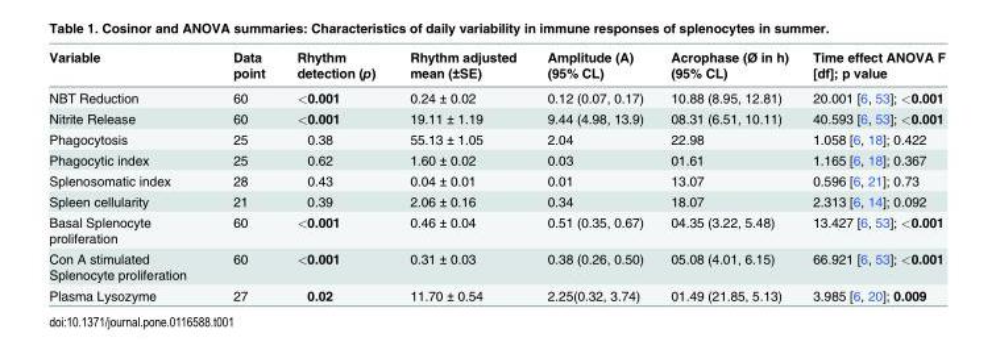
<table><thead><tr><td>Variable</td><td>Data point</td><td>Rhythm detection (p)</td><td>Rhythm adjusted mean (±SE)</td><td>Amplitude (A) (95% CL)</td><td>Acrophase (Ø in h) (95% CL)</td><td>Time effect ANOVA F [df]; p value</td></tr></thead><tbody><tr><td>NBT Reduction</td><td>60</td><td>&lt;0.001</td><td>0.24 ± 0.02</td><td>0.12 (0.07, 0.17)</td><td>10.88 (8.95, 12.81)</td><td>20.001 [6, 53]; &lt;0.001</td></tr><tr><td>Nitrite Release</td><td>60</td><td>&lt;0.001</td><td>19.11 ± 1.19</td><td>9.44 (4.98, 13.9)</td><td>08.31 (6.51, 10.11)</td><td>40.593 [6, 53]; &lt;0.001</td></tr><tr><td>Phagocytosis</td><td>25</td><td>0.38</td><td>55.13 ± 1.05</td><td>2.04</td><td>22.98</td><td>1.058 [6, 18]; 0.422</td></tr><tr><td>Phagocytic index</td><td>25</td><td>0.62</td><td>1.60 ± 0.02</td><td>0.03</td><td>01.61</td><td>1.165 [6, 18]; 0.367</td></tr><tr><td>Splenosomatic index</td><td>28</td><td>0.43</td><td>0.04 ± 0.01</td><td>0.01</td><td>13.07</td><td>0.596 [6, 21]; 0.73</td></tr><tr><td>Spleen cellularity</td><td>21</td><td>0.39</td><td>2.06 ± 0.16</td><td>0.34</td><td>18.07</td><td>2.313 [6, 14]; 0.092</td></tr><tr><td>Basal Splenocyte proliferation</td><td>60</td><td>&lt;0.001</td><td>0.46 ± 0.04</td><td>0.51 (0.35, 0.67)</td><td>04.35 (3.22, 5.48)</td><td>13.427 [6, 53]; &lt;0.001</td></tr><tr><td>Con A stimulated Splenocyte proliferation</td><td>60</td><td>&lt;0.001</td><td>0.31 ± 0.03</td><td>0.38 (0.26, 0.50)</td><td>05.08 (4.01, 6.15)</td><td>66.921 [6, 53]; &lt;0.001</td></tr><tr><td>Plasma Lysozyme</td><td>27</td><td>0.02</td><td>11.70 ± 0.54</td><td>2.25(0.32, 3.74)</td><td>01.49 (21.85, 5.13)</td><td>3.985 [6, 20]; 0.009</td></tr></tbody></table>